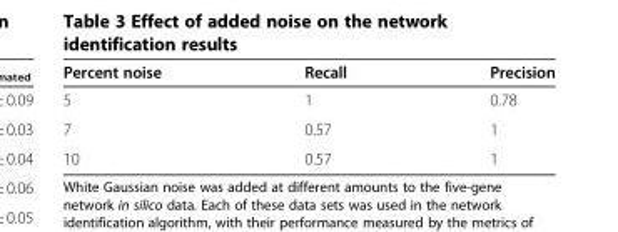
<table><thead><tr><td>Percent noise</td><td>Recall</td><td>Precision</td></tr></thead><tbody><tr><td>5</td><td>1</td><td>0.78</td></tr><tr><td>7</td><td>0.57</td><td>1</td></tr><tr><td>10</td><td>0.57</td><td>1</td></tr></tbody></table>